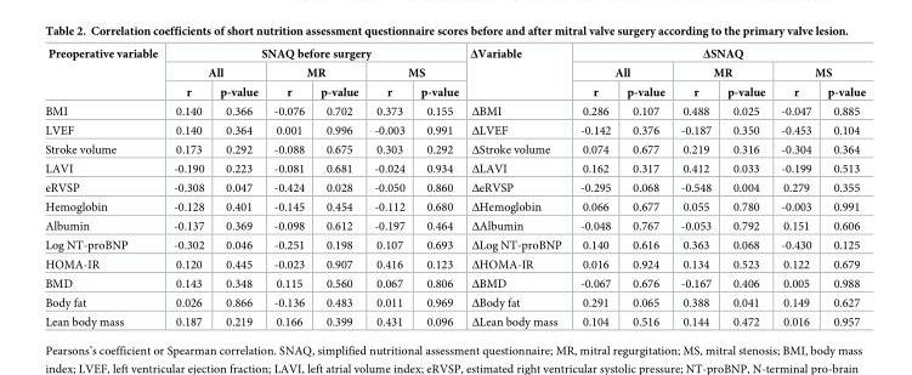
<table><thead><tr><td rowspan="3">Preoperative variable</td><td colspan="6">SNAQ before surgery</td><td rowspan="3">ΔVariable</td><td colspan="6">ΔSNAQ</td></tr><tr><td colspan="2">All</td><td colspan="2">MR</td><td colspan="2">MS</td><td colspan="2">All</td><td colspan="2">MR</td><td colspan="2">MS</td></tr><tr><td>r</td><td>p-value</td><td>r</td><td>p-value</td><td>r</td><td>p-value</td><td>r</td><td>p-value</td><td>r</td><td>p-value</td><td>r</td><td>p-value</td></tr></thead><tbody><tr><td>BMI</td><td>0.140</td><td>0.366</td><td>-0.076</td><td>0.702</td><td>0.373</td><td>0.155</td><td>ΔBMI</td><td>0.286</td><td>0.107</td><td>0.488</td><td>0.025</td><td>-0.047</td><td>0.885</td></tr><tr><td>LVEF</td><td>0.140</td><td>0.364</td><td>0.001</td><td>0.996</td><td>-0.003</td><td>0.991</td><td>ΔLVEF</td><td>-0.142</td><td>0.376</td><td>-0.187</td><td>0.350</td><td>-0.453</td><td>0.104</td></tr><tr><td>Stroke volume</td><td>0.173</td><td>0.292</td><td>-0.088</td><td>0.675</td><td>0.303</td><td>0.292</td><td>ΔStroke volume</td><td>0.074</td><td>0.677</td><td>0.219</td><td>0.316</td><td>-0.304</td><td>0.364</td></tr><tr><td>LAVI</td><td>-0.190</td><td>0.223</td><td>-0.081</td><td>0.681</td><td>-0.024</td><td>0.934</td><td>ΔLAVI</td><td>0.162</td><td>0.317</td><td>0.412</td><td>0.033</td><td>-0.199</td><td>0.513</td></tr><tr><td>eRVSP</td><td>-0.308</td><td>0.047</td><td>-0.424</td><td>0.028</td><td>-0.050</td><td>0.860</td><td>ΔeRVSP</td><td>-0.295</td><td>0.068</td><td>-0.548</td><td>0.004</td><td>0.279</td><td>0.355</td></tr><tr><td>Hemoglobin</td><td>-0.128</td><td>0.401</td><td>-0.145</td><td>0.454</td><td>-0.112</td><td>0.680</td><td>ΔHemoglobin</td><td>0.066</td><td>0.677</td><td>0.055</td><td>0.780</td><td>-0.003</td><td>0.991</td></tr><tr><td>Albumin</td><td>-0.137</td><td>0.369</td><td>-0.098</td><td>0.612</td><td>-0.197</td><td>0.464</td><td>ΔAlbumin</td><td>-0.048</td><td>0.767</td><td>-0.053</td><td>0.792</td><td>0.151</td><td>0.606</td></tr><tr><td>Log NT-proBNP</td><td>-0.302</td><td>0.046</td><td>-0.251</td><td>0.198</td><td>0.107</td><td>0.693</td><td>ΔLog NT-proBNP</td><td>0.140</td><td>0.616</td><td>0.363</td><td>0.068</td><td>-0.430</td><td>0.125</td></tr><tr><td>HOMA-IR</td><td>0.120</td><td>0.445</td><td>-0.023</td><td>0.907</td><td>0.416</td><td>0.123</td><td>ΔHOMA-IR</td><td>0.016</td><td>0.924</td><td>0.134</td><td>0.523</td><td>0.122</td><td>0.679</td></tr><tr><td>BMD</td><td>0.143</td><td>0.348</td><td>0.115</td><td>0.560</td><td>0.067</td><td>0.806</td><td>ΔBMD</td><td>-0.067</td><td>0.676</td><td>-0.167</td><td>0.406</td><td>0.005</td><td>0.988</td></tr><tr><td>Body fat</td><td>0.026</td><td>0.866</td><td>-0.136</td><td>0.483</td><td>0.011</td><td>0.969</td><td>ΔBody fat</td><td>0.291</td><td>0.065</td><td>0.388</td><td>0.041</td><td>0.149</td><td>0.627</td></tr><tr><td>Lean body mass</td><td>0.187</td><td>0.219</td><td>0.166</td><td>0.399</td><td>0.431</td><td>0.096</td><td>ΔLean body mass</td><td>0.104</td><td>0.516</td><td>0.144</td><td>0.472</td><td>0.016</td><td>0.957</td></tr></tbody></table>